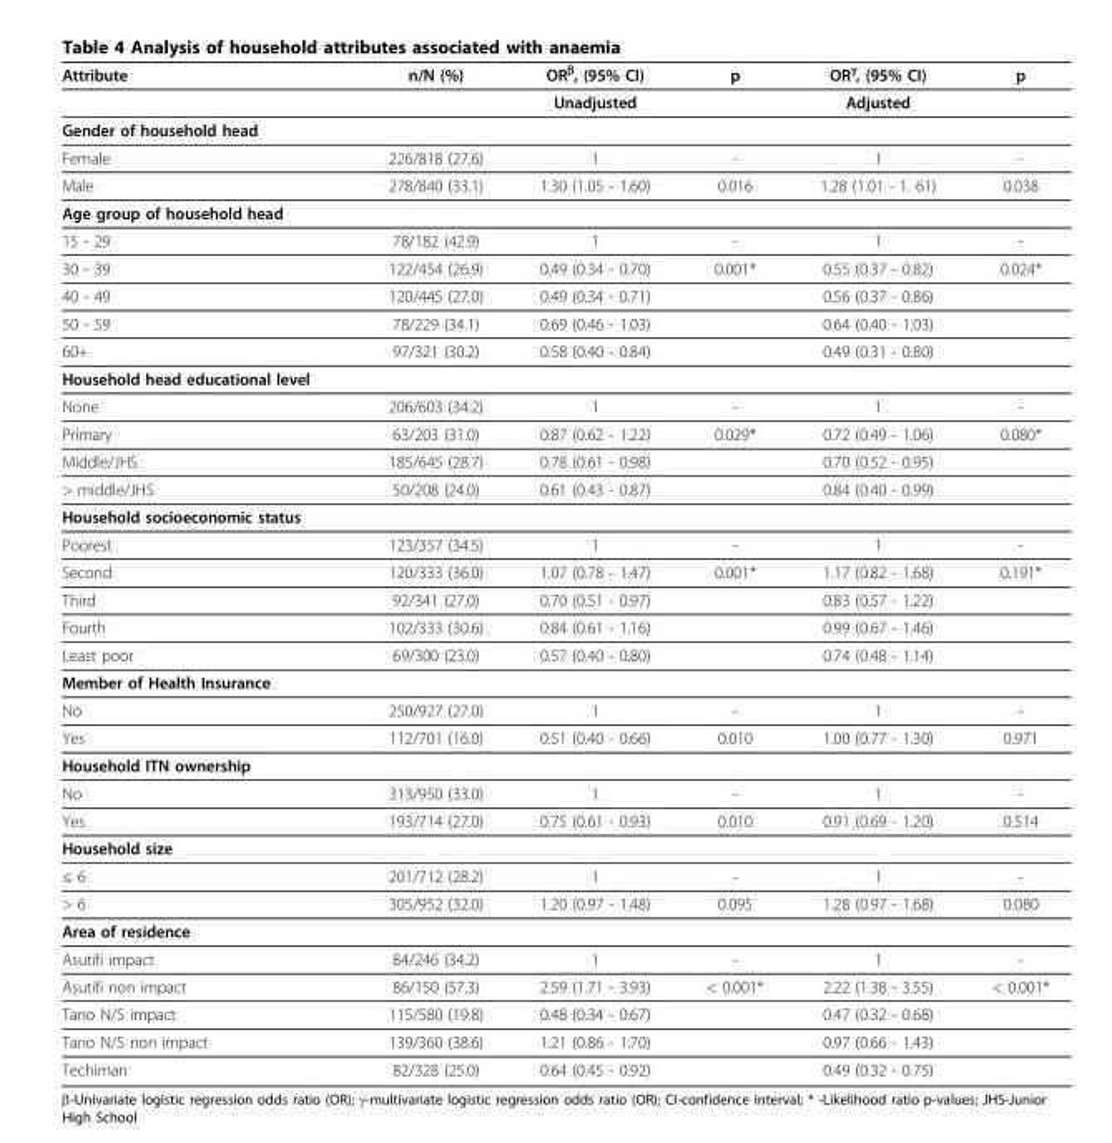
<table><thead><tr><td>Attribute</td><td>n/N (%)</td><td>ORβ, (95% CI)</td><td>p</td><td>ORγ, (95% CI)</td><td>p</td></tr></thead><tbody><tr><td></td><td></td><td>Unadjusted</td><td></td><td>Adjusted</td><td></td></tr><tr><td colspan="6">Gender of household head</td></tr><tr><td>Female</td><td>226/818 (27.6)</td><td>1</td><td>-</td><td>1</td><td>-</td></tr><tr><td>Male</td><td>278/840 (33.1)</td><td>1.30 (1.05 - 1.60)</td><td>0.016</td><td>1.28 (1.01 - 1. 61)</td><td>0.038</td></tr><tr><td colspan="6">Age group of household head</td></tr><tr><td>15 - 29</td><td>78/182 (42.9)</td><td>1</td><td>-</td><td>1</td><td>-</td></tr><tr><td>30 - 39</td><td>122/454 (26.9)</td><td>0.49 (0.34 - 0.70)</td><td>0.001*</td><td>0.55 (0.37 - 0.82)</td><td>0.024*</td></tr><tr><td>40 - 49</td><td>120/445 (27.0)</td><td>0.49 (0.34 - 0.71)</td><td></td><td>0.56 (0.37 - 0.86)</td><td></td></tr><tr><td>50 - 59</td><td>78/229 (34.1)</td><td>0.69 (0.46 - 1.03)</td><td></td><td>0.64 (0.40 - 1.03)</td><td></td></tr><tr><td>60+</td><td>97/321 (30.2)</td><td>0.58 (0.40 - 0.84)</td><td></td><td>0.49 (0.31 - 0.80)</td><td></td></tr><tr><td colspan="6">Household head educational level</td></tr><tr><td>None</td><td>206/603 (34.2)</td><td>1</td><td>-</td><td>1</td><td>-</td></tr><tr><td>Primary</td><td>63/203 (31.0)</td><td>0.87 (0.62 - 1.22)</td><td>0.029*</td><td>0.72 (0.49 - 1.06)</td><td>0.080*</td></tr><tr><td>Middle/JHS</td><td>185/645 (28.7)</td><td>0.78 (0.61 - 0.98)</td><td></td><td>0.70 (0.52 - 0.95)</td><td></td></tr><tr><td>&gt; middle/JHS</td><td>50/208 (24.0)</td><td>0.61 (0.43 - 0.87)</td><td></td><td>0.84 (0.40 - 0.99)</td><td></td></tr><tr><td colspan="6">Household socioeconomic status</td></tr><tr><td>Poorest</td><td>123/357 (34.5)</td><td>1</td><td>-</td><td>1</td><td>-</td></tr><tr><td>Second</td><td>120/333 (36.0)</td><td>1.07 (0.78 - 1.47)</td><td>0.001*</td><td>1.17 (0.82 - 1.68)</td><td>0.191*</td></tr><tr><td>Third</td><td>92/341 (27.0)</td><td>0.70 (0.51 - 0.97)</td><td></td><td>0.83 (0.57 - 1.22)</td><td></td></tr><tr><td>Fourth</td><td>102/333 (30.6)</td><td>0.84 (0.61 - 1.16)</td><td></td><td>0.99 (0.67 - 1.46)</td><td></td></tr><tr><td>Least poor</td><td>69/300 (23.0)</td><td>0.57 (0.40 - 0.80)</td><td></td><td>0.74 (0.48 - 1.14)</td><td></td></tr><tr><td colspan="6">Member of Health Insurance</td></tr><tr><td>No</td><td>250/927 (27.0)</td><td>1</td><td>-</td><td>1</td><td>-</td></tr><tr><td>Yes</td><td>112/701 (16.0)</td><td>0.51 (0.40 - 0.66)</td><td>0.010</td><td>1.00 (0.77 - 1.30)</td><td>0.971</td></tr><tr><td colspan="6">Household ITN ownership</td></tr><tr><td>No</td><td>313/950 (33.0)</td><td>1</td><td>-</td><td>1</td><td>-</td></tr><tr><td>Yes</td><td>193/714 (27.0)</td><td>0.75 (0.61 - 0.93)</td><td>0.010</td><td>0.91 (0.69 - 1.20)</td><td>0.514</td></tr><tr><td colspan="6">Household size</td></tr><tr><td>≤ 6</td><td>201/712 (28.2)</td><td>1</td><td>-</td><td>1</td><td>-</td></tr><tr><td>&gt; 6</td><td>305/952 (32.0)</td><td>1.20 (0.97 - 1.48)</td><td>0.095</td><td>1.28 (0.97 - 1.68)</td><td>0.080</td></tr><tr><td colspan="6">Area of residence</td></tr><tr><td>Asutifi impact</td><td>84/246 (34.2)</td><td>1</td><td>-</td><td>1</td><td>-</td></tr><tr><td>Asutifi non impact</td><td>86/150 (57.3)</td><td>2.59 (1.71 - 3.93)</td><td>&lt; 0.001*</td><td>2.22 (1.38 - 3.55)</td><td>&lt; 0.001*</td></tr><tr><td>Tano N/S impact</td><td>115/580 (19.8)</td><td>0.48 (0.34 - 0.67)</td><td></td><td>0.47 (0.32 - 0.68)</td><td></td></tr><tr><td>Tano N/S non impact</td><td>139/360 (38.6)</td><td>1.21 (0.86 - 1.70)</td><td></td><td>0.97 (0.66 - 1.43)</td><td></td></tr><tr><td>Techiman</td><td>82/328 (25.0)</td><td>0.64 (0.45 - 0.92)</td><td></td><td>0.49 (0.32 - 0.75)</td><td></td></tr></tbody></table>